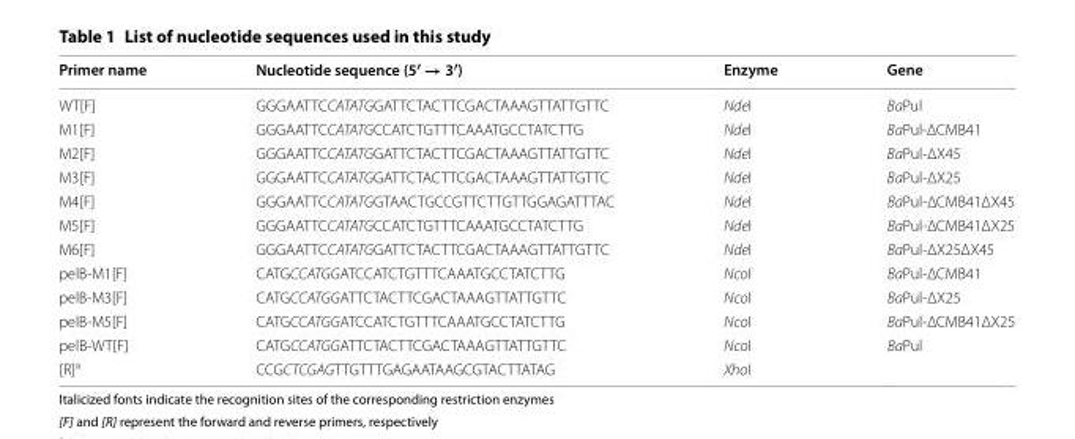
<table><thead><tr><td>Primer name</td><td>Nucleotide sequence (5′ → 3′)</td><td>Enzyme</td><td>Gene</td></tr></thead><tbody><tr><td>WT[F]</td><td>GGGAATTCCATATGGATTCTACTTCGACTAAAGTTATTGTTC</td><td>NdeI</td><td>BaPul</td></tr><tr><td>M1[F]</td><td>GGGAATTCCATATGCCATCTGTTTCAAATGCCTATCTTG</td><td>NdeI</td><td>BaPul-ΔCMB41</td></tr><tr><td>M2[F]</td><td>GGGAATTCCATATGGATTCTACTTCGACTAAAGTTATTGTTC</td><td>NdeI</td><td>BaPul-ΔX45</td></tr><tr><td>M3[F]</td><td>GGGAATTCCATATGGATTCTACTTCGACTAAAGTTATTGTTC</td><td>NdeI</td><td>BaPul-ΔX25</td></tr><tr><td>M4[F]</td><td>GGGAATTCCATATGGTAACTGCCGTTCTTGTTGGAGATTTAC</td><td>NdeI</td><td>BaPul-ΔCMB41ΔX45</td></tr><tr><td>M5[F]</td><td>GGGAATTCCATATGCCATCTGTTTCAAATGCCTATCTTG</td><td>NdeI</td><td>BaPul-ΔCMB41ΔX25</td></tr><tr><td>M6[F]</td><td>GGGAATTCCATATGGATTCTACTTCGACTAAAGTTATTGTTC</td><td>NdeI</td><td>BaPul-ΔX25ΔX45</td></tr><tr><td>pelB-M1[F]</td><td>CATGCCATGGATCCATCTGTTTCAAATGCCTATCTTG</td><td>NcoI</td><td>BaPul-ΔCMB41</td></tr><tr><td>pelB-M3[F]</td><td>CATGCCATGGATTCTACTTCGACTAAAGTTATTGTTC</td><td>NcoI</td><td>BaPul-ΔX25</td></tr><tr><td>pelB-M5[F]</td><td>CATGCCATGGATCCATCTGTTTCAAATGCCTATCTTG</td><td>NcoI</td><td>BaPul-ΔCMB41ΔX25</td></tr><tr><td>pelB-WT[F]</td><td>CATGCCATGGATTCTACTTCGACTAAAGTTATTGTTC</td><td>NcoI</td><td>BaPul</td></tr><tr><td>[R]<sup>a</sup></td><td>CCGCTCGAGTTGTTTGAGAATAAGCGTACTTATAG</td><td>XhoI</td><td></td></tr></tbody></table>